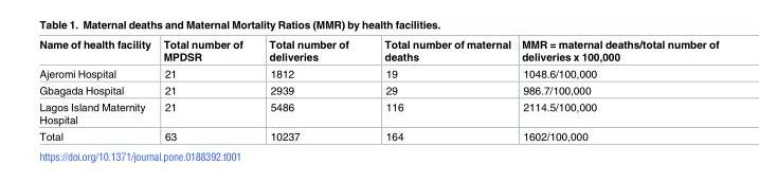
<table><thead><tr><td>Name of health facility</td><td>Total number of MPDSR</td><td>Total number of deliveries</td><td>Total number of maternal deaths</td><td>MMR = maternal deaths/total number of deliveries x 100,000</td></tr></thead><tbody><tr><td>Ajeromi Hospital</td><td>21</td><td>1812</td><td>19</td><td>1048.6/100,000</td></tr><tr><td>Gbagada Hospital</td><td>21</td><td>2939</td><td>29</td><td>986.7/100,000</td></tr><tr><td>Lagos Island Maternity Hospital</td><td>21</td><td>5486</td><td>116</td><td>2114.5/100,000</td></tr><tr><td>Total</td><td>63</td><td>10237</td><td>164</td><td>1602/100,000</td></tr></tbody></table>